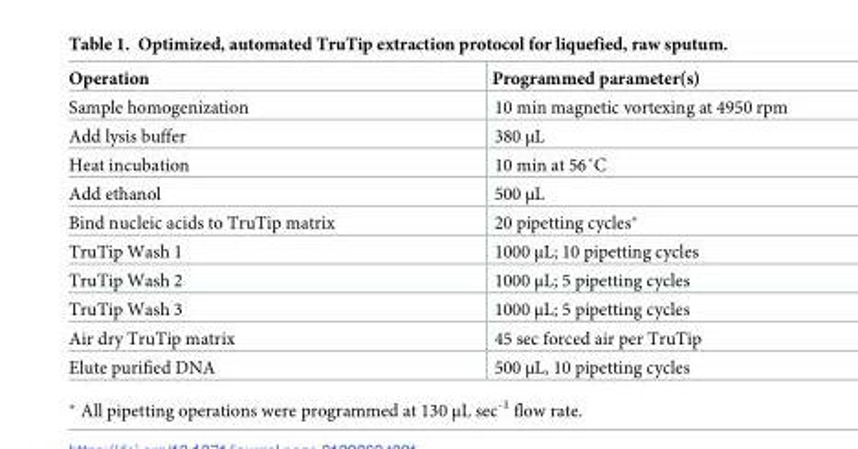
<table><thead><tr><td>Operation</td><td>Programmed parameter(s)</td></tr></thead><tbody><tr><td>Sample homogenization</td><td>10 min magnetic vortexing at 4950 rpm</td></tr><tr><td>Add lysis buffer</td><td>380 μL</td></tr><tr><td>Heat incubation</td><td>10 min at 56˚C</td></tr><tr><td>Add ethanol</td><td>500 μL</td></tr><tr><td>Bind nucleic acids to TruTip matrix</td><td>20 pipetting cycles*</td></tr><tr><td>TruTip Wash 1</td><td>1000 μL; 10 pipetting cycles</td></tr><tr><td>TruTip Wash 2</td><td>1000 μL; 5 pipetting cycles</td></tr><tr><td>TruTip Wash 3</td><td>1000 μL; 5 pipetting cycles</td></tr><tr><td>Air dry TruTip matrix</td><td>45 sec forced air per TruTip</td></tr><tr><td>Elute purified DNA</td><td>500 μL, 10 pipetting cycles</td></tr></tbody></table>